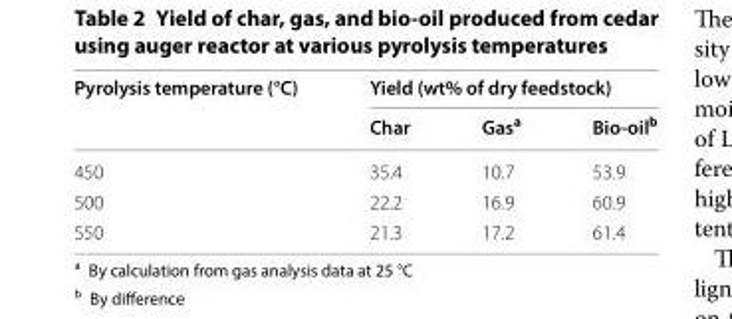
<table><thead><tr><td rowspan="2">Pyrolysis temperature (°C)</td><td colspan="3">Yield (wt% of dry feedstock)</td></tr><tr><td>Char</td><td>Gas<sup>a</sup></td><td>Bio‑oil<sup>b</sup></td></tr></thead><tbody><tr><td>450</td><td>35.4</td><td>10.7</td><td>53.9</td></tr><tr><td>500</td><td>22.2</td><td>16.9</td><td>60.9</td></tr><tr><td>550</td><td>21.3</td><td>17.2</td><td>61.4</td></tr></tbody></table>